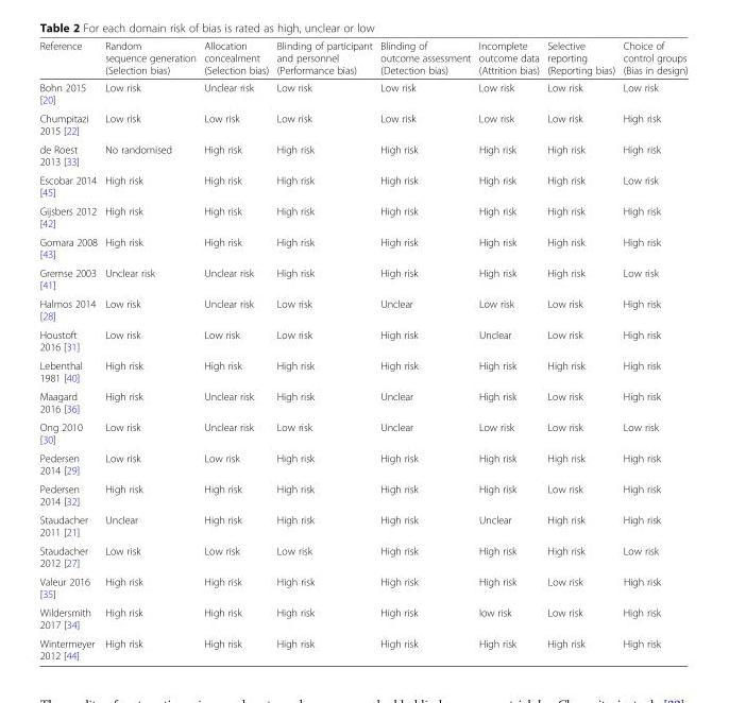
<table><thead><tr><td>Reference</td><td>Random sequence generation (Selection bias)</td><td>Allocation concealment (Selection bias)</td><td>Blinding of participant and personnel (Performance bias)</td><td>Blinding of outcome assessment (Detection bias)</td><td>Incomplete outcome data (Attrition bias)</td><td>Selective reporting (Reporting bias)</td><td>Choice of control groups (Bias in design)</td></tr></thead><tbody><tr><td>Bohn 2015 [20]</td><td>Low risk</td><td>Unclear risk</td><td>Low risk</td><td>Low risk</td><td>Low risk</td><td>Low risk</td><td>Low risk</td></tr><tr><td>Chumpitazi 2015 [22]</td><td>Low risk</td><td>Low risk</td><td>Low risk</td><td>Low risk</td><td>Low risk</td><td>Low risk</td><td>High risk</td></tr><tr><td>de Roest 2013 [33]</td><td>No randomised</td><td>High risk</td><td>High risk</td><td>High risk</td><td>High risk</td><td>High risk</td><td>High risk</td></tr><tr><td>Escobar 2014 [45]</td><td>High risk</td><td>High risk</td><td>High risk</td><td>High risk</td><td>High risk</td><td>High risk</td><td>Low risk</td></tr><tr><td>Gijsbers 2012 [42]</td><td>High risk</td><td>High risk</td><td>High risk</td><td>High risk</td><td>High risk</td><td>High risk</td><td>High risk</td></tr><tr><td>Gomara 2008 [43]</td><td>High risk</td><td>High risk</td><td>High risk</td><td>High risk</td><td>High risk</td><td>High risk</td><td>High risk</td></tr><tr><td>Gremse 2003 [41]</td><td>Unclear risk</td><td>Unclear risk</td><td>High risk</td><td>High risk</td><td>High risk</td><td>High risk</td><td>Low risk</td></tr><tr><td>Halmos 2014 [28]</td><td>Low risk</td><td>Unclear risk</td><td>Low risk</td><td>Unclear</td><td>Low risk</td><td>Low risk</td><td>High risk</td></tr><tr><td>Houstoft 2016 [31]</td><td>Low risk</td><td>Low risk</td><td>Low risk</td><td>High risk</td><td>Unclear</td><td>Low risk</td><td>High risk</td></tr><tr><td>Lebenthal 1981 [40]</td><td>High risk</td><td>High risk</td><td>High risk</td><td>High risk</td><td>High risk</td><td>High risk</td><td>High risk</td></tr><tr><td>Maagard 2016 [36]</td><td>High risk</td><td>Unclear risk</td><td>High risk</td><td>Unclear</td><td>High risk</td><td>Low risk</td><td>High risk</td></tr><tr><td>Ong 2010 [30]</td><td>Low risk</td><td>Unclear risk</td><td>Low risk</td><td>Unclear</td><td>Low risk</td><td>Low risk</td><td>Low risk</td></tr><tr><td>Pedersen 2014 [29]</td><td>Low risk</td><td>Low risk</td><td>High risk</td><td>High risk</td><td>High risk</td><td>High risk</td><td>High risk</td></tr><tr><td>Pedersen 2014 [32]</td><td>High risk</td><td>High risk</td><td>High risk</td><td>High risk</td><td>High risk</td><td>Low risk</td><td>High risk</td></tr><tr><td>Staudacher 2011 [21]</td><td>Unclear</td><td>High risk</td><td>High risk</td><td>High risk</td><td>Unclear</td><td>High risk</td><td>High risk</td></tr><tr><td>Staudacher 2012 [27]</td><td>Low risk</td><td>Low risk</td><td>Low risk</td><td>High risk</td><td>High risk</td><td>High risk</td><td>Low risk</td></tr><tr><td>Valeur 2016 [35]</td><td>High risk</td><td>High risk</td><td>High risk</td><td>High risk</td><td>High risk</td><td>Low risk</td><td>High risk</td></tr><tr><td>Wildersmith 2017 [34]</td><td>High risk</td><td>High risk</td><td>High risk</td><td>High risk</td><td>low risk</td><td>Low risk</td><td>High risk</td></tr><tr><td>Wintermeyer 2012 [44]</td><td>High risk</td><td>High risk</td><td>High risk</td><td>High risk</td><td>High risk</td><td>High risk</td><td>High risk</td></tr></tbody></table>